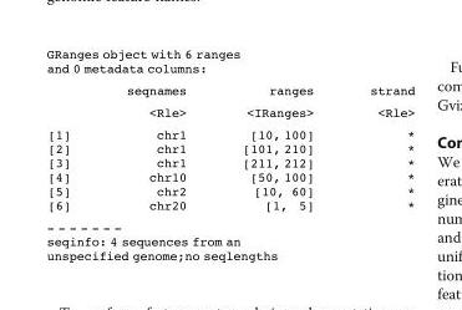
<table><tbody><tr><td colspan="4">GRanges object with 6 ranges and 0 metadata columns:</td></tr><tr><td rowspan="2"></td><td>seqnames</td><td>ranges</td><td>strand</td></tr><tr><td>&lt;Rle&gt;</td><td>&lt;IRanges&gt;</td><td>&lt;Rle&gt;</td></tr><tr><td>[1] [2] [3] [4] [5] [6]</td><td>chr1 chr1 chr1 chr10 chr2 chr20</td><td>[10, 100] [101, 210] [211, 212] [50, 100] [10, 60] [1, 5]</td><td>* * * * * *</td></tr><tr><td colspan="4">- - - - - - - seqinfo: 4 sequences from an unspecified genome;no seqlengths</td></tr></tbody></table>